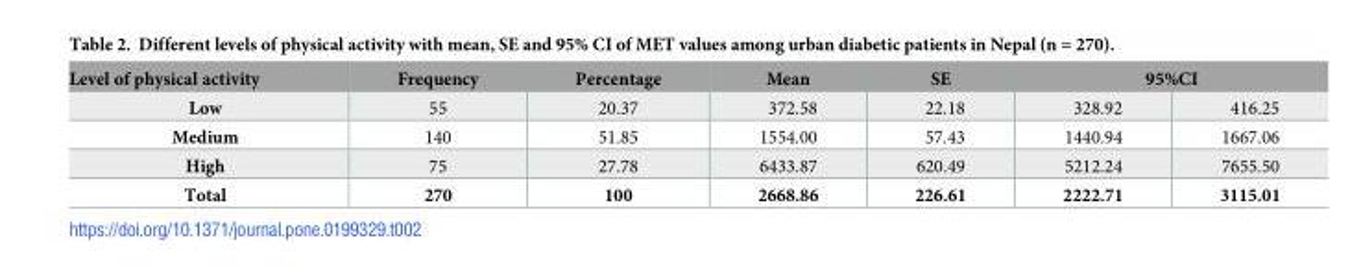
<table><thead><tr><td rowspan="2">Level of physical activity Low</td><td rowspan="2">Frequency 55</td><td rowspan="2">Percentage 20.37</td><td rowspan="2">Mean 372.58</td><td rowspan="2">SE 22.18</td><td colspan="2">95%CI</td></tr><tr><td>328.92</td><td>416.25</td></tr></thead><tbody><tr><td>Medium</td><td>140</td><td>51.85</td><td>1554.00</td><td>57.43</td><td>1440.94</td><td>1667.06</td></tr><tr><td>High</td><td>75</td><td>27.78</td><td>6433.87</td><td>620.49</td><td>5212.24</td><td>7655.50</td></tr><tr><td>Total</td><td>270</td><td>100</td><td>2668.86</td><td>226.61</td><td>2222.71</td><td>3115.01</td></tr></tbody></table>